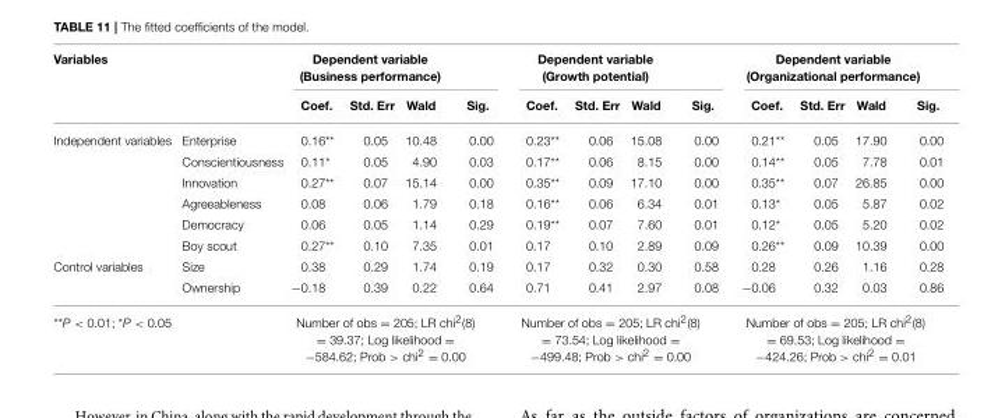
<table><thead><tr><td colspan="2">Variables</td><td colspan="4">Dependent variable (Business performance)</td><td colspan="4">Dependent variable (Growth potential)</td><td colspan="4">Dependent variable (Organizational performance)</td></tr><tr><td></td><td></td><td>Coef.</td><td>Std. Err</td><td>Wald</td><td>Sig.</td><td>Coef.</td><td>Std. Err</td><td>Wald</td><td>Sig.</td><td>Coef.</td><td>Std. Err</td><td>Wald</td><td>Sig.</td></tr></thead><tbody><tr><td rowspan="6">Independent variables</td><td>Enterprise</td><td>0.16**</td><td>0.05</td><td>10.48</td><td>0.00</td><td>0.23**</td><td>0.06</td><td>15.08</td><td>0.00</td><td>0.21**</td><td>0.05</td><td>17.90</td><td>0.00</td></tr><tr><td>Conscientiousness</td><td>0.11*</td><td>0.05</td><td>4.90</td><td>0.03</td><td>0.17**</td><td>0.06</td><td>8.15</td><td>0.00</td><td>0.14**</td><td>0.05</td><td>7.78</td><td>0.01</td></tr><tr><td>Innovation</td><td>0.27**</td><td>0.07</td><td>15.14</td><td>0.00</td><td>0.35**</td><td>0.09</td><td>17.10</td><td>0.00</td><td>0.35**</td><td>0.07</td><td>26.85</td><td>0.00</td></tr><tr><td>Agreeableness</td><td>0.08</td><td>0.06</td><td>1.79</td><td>0.18</td><td>0.16**</td><td>0.06</td><td>6.34</td><td>0.01</td><td>0.13*</td><td>0.05</td><td>5.87</td><td>0.02</td></tr><tr><td>Democracy</td><td>0.06</td><td>0.05</td><td>1.14</td><td>0.29</td><td>0.19**</td><td>0.07</td><td>7.60</td><td>0.01</td><td>0.12*</td><td>0.05</td><td>5.20</td><td>0.02</td></tr><tr><td>Boy scout</td><td>0.27**</td><td>0.10</td><td>7.35</td><td>0.01</td><td>0.17</td><td>0.10</td><td>2.89</td><td>0.09</td><td>0.26**</td><td>0.09</td><td>10.39</td><td>0.00</td></tr><tr><td rowspan="2">Control variables</td><td>Size</td><td>0.38</td><td>0.29</td><td>1.74</td><td>0.19</td><td>0.17</td><td>0.32</td><td>0.30</td><td>0.58</td><td>0.28</td><td>0.26</td><td>1.16</td><td>0.28</td></tr><tr><td>Ownership</td><td>−0.18</td><td>0.39</td><td>0.22</td><td>0.64</td><td>0.71</td><td>0.41</td><td>2.97</td><td>0.08</td><td>−0.06</td><td>0.32</td><td>0.03</td><td>0.86</td></tr><tr><td colspan="2">**P &lt; 0.01; *P &lt; 0.05</td><td colspan="4">Number of obs = 205; LR chi<sup>2</sup>(8) = 39.37; Log likelihood = −584.62; Prob &gt; chi<sup>2</sup> = 0.00</td><td colspan="4">Number of obs = 205; LR chi<sup>2</sup>(8) = 73.54; Log likelihood = −499.48; Prob &gt; chi<sup>2</sup> = 0.00</td><td colspan="4">Number of obs = 205; LR chi<sup>2</sup>(8) = 69.53; Log likelihood = −424.26; Prob &gt; chi<sup>2</sup> = 0.01</td></tr></tbody></table>